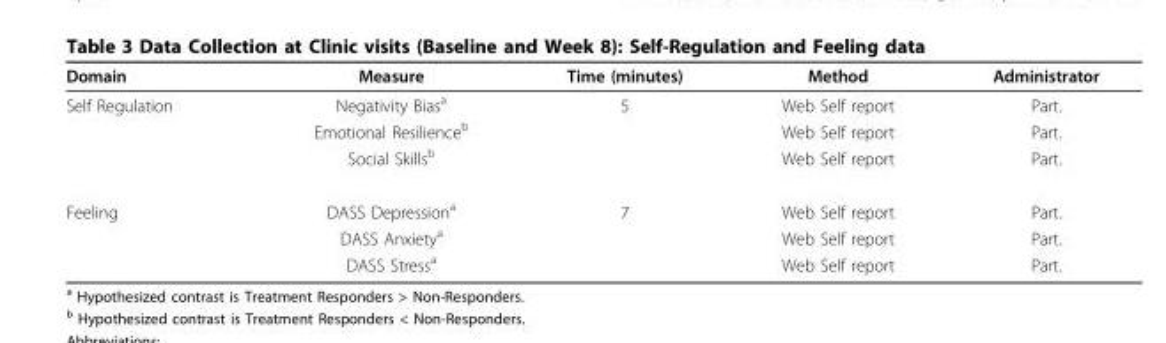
<table><thead><tr><td>Domain</td><td>Measure</td><td>Time (minutes)</td><td>Method</td><td>Administrator</td></tr></thead><tbody><tr><td rowspan="3">Self Regulation</td><td>Negativity Bias<sup>a</sup></td><td>5</td><td>Web Self report</td><td>Part.</td></tr><tr><td>Emotional Resilience<sup>b</sup></td><td></td><td>Web Self report</td><td>Part.</td></tr><tr><td>Social Skills<sup>b</sup></td><td></td><td>Web Self report</td><td>Part.</td></tr><tr><td rowspan="3">Feeling</td><td>DASS Depression<sup>a</sup></td><td>7</td><td>Web Self report</td><td>Part.</td></tr><tr><td>DASS Anxiety<sup>a</sup></td><td></td><td>Web Self report</td><td>Part.</td></tr><tr><td>DASS Stress<sup>a</sup></td><td></td><td>Web Self report</td><td>Part.</td></tr></tbody></table>